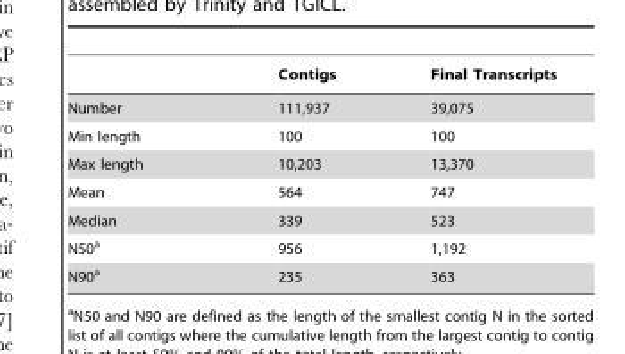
<table><thead><tr><td></td><td>Contigs</td><td>Final Transcripts</td></tr></thead><tbody><tr><td>Number</td><td>111,937</td><td>39,075</td></tr><tr><td>Min length</td><td>100</td><td>100</td></tr><tr><td>Max length</td><td>10,203</td><td>13,370</td></tr><tr><td>Mean</td><td>564</td><td>747</td></tr><tr><td>Median</td><td>339</td><td>523</td></tr><tr><td>N50<sup>a</sup></td><td>956</td><td>1,192</td></tr><tr><td>N90<sup>a</sup></td><td>235</td><td>363</td></tr></tbody></table>